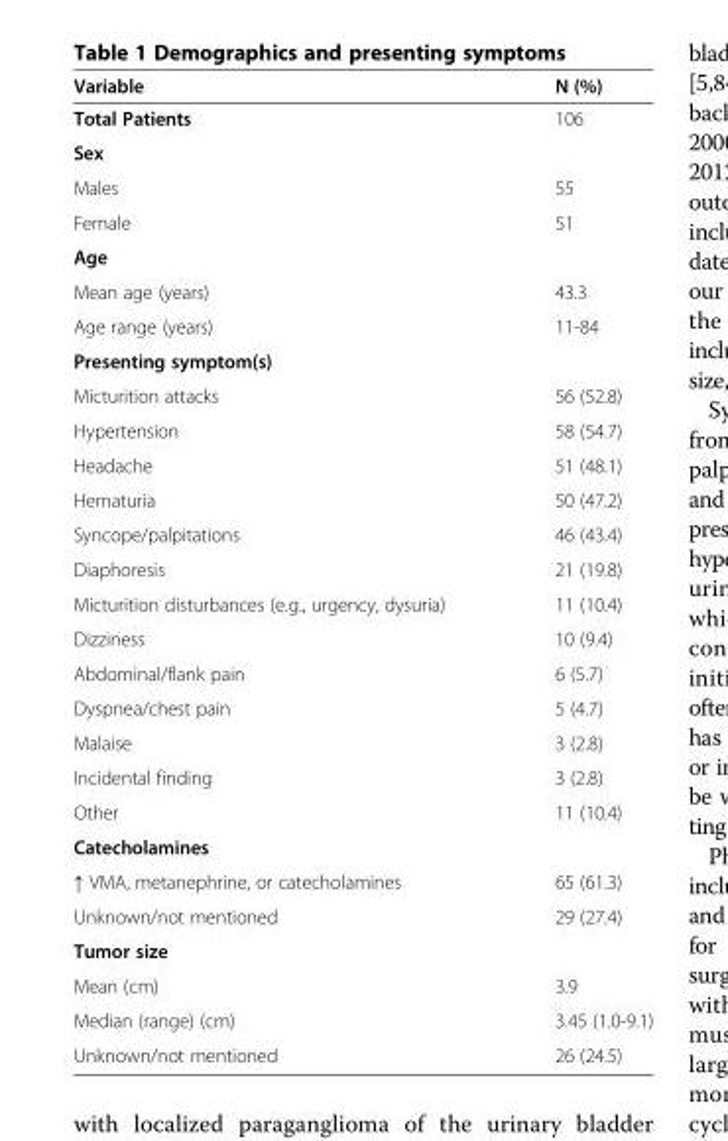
<table><thead><tr><td>Variable</td><td>N (%)</td></tr></thead><tbody><tr><td>Total Patients</td><td>106</td></tr><tr><td colspan="2">Sex</td></tr><tr><td>Males</td><td>55</td></tr><tr><td>Female</td><td>51</td></tr><tr><td colspan="2">Age</td></tr><tr><td>Mean age (years)</td><td>43.3</td></tr><tr><td>Age range (years)</td><td>11-84</td></tr><tr><td colspan="2">Presenting symptom(s)</td></tr><tr><td>Micturition attacks</td><td>56 (52.8)</td></tr><tr><td>Hypertension</td><td>58 (54.7)</td></tr><tr><td>Headache</td><td>51 (48.1)</td></tr><tr><td>Hematuria</td><td>50 (47.2)</td></tr><tr><td>Syncope/palpitations</td><td>46 (43.4)</td></tr><tr><td>Diaphoresis</td><td>21 (19.8)</td></tr><tr><td>Micturition disturbances (e.g., urgency, dysuria)</td><td>11 (10.4)</td></tr><tr><td>Dizziness</td><td>10 (9.4)</td></tr><tr><td>Abdominal/flank pain</td><td>6 (5.7)</td></tr><tr><td>Dyspnea/chest pain</td><td>5 (4.7)</td></tr><tr><td>Malaise</td><td>3 (2.8)</td></tr><tr><td>Incidental finding</td><td>3 (2.8)</td></tr><tr><td>Other</td><td>11 (10.4)</td></tr><tr><td colspan="2">Catecholamines</td></tr><tr><td>↑ VMA, metanephrine, or catecholamines</td><td>65 (61.3)</td></tr><tr><td>Unknown/not mentioned</td><td>29 (27.4)</td></tr><tr><td colspan="2">Tumor size</td></tr><tr><td>Mean (cm)</td><td>3.9</td></tr><tr><td>Median (range) (cm)</td><td>3.45 (1.0-9.1)</td></tr><tr><td>Unknown/not mentioned</td><td>26 (24.5)</td></tr></tbody></table>